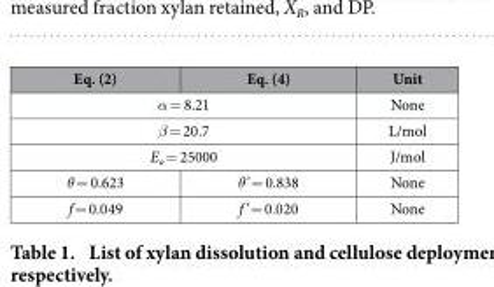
<table><thead><tr><td>Eq. (2)</td><td>Eq. (4)</td><td>Unit</td></tr></thead><tbody><tr><td colspan="2">α = 8.21</td><td>None</td></tr><tr><td colspan="2">β = 20.7</td><td>L/mol</td></tr><tr><td colspan="2">E<sub>a</sub> = 25000</td><td>J/mol</td></tr><tr><td>θ = 0.623</td><td>θ’ = 0.838</td><td>None</td></tr><tr><td>f = 0.049</td><td>f’ = 0.020</td><td>None</td></tr></tbody></table>